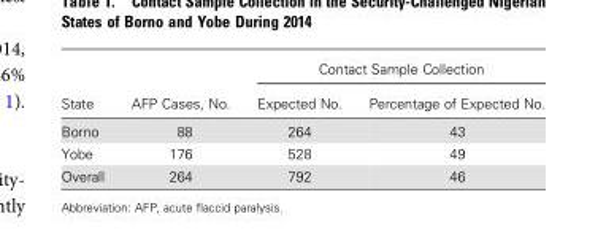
<table><thead><tr><td rowspan="2">State</td><td rowspan="2">AFP Cases, No.</td><td colspan="2">Contact Sample Collection</td></tr><tr><td>Expected No.</td><td>Percentage of Expected No.</td></tr></thead><tbody><tr><td>Borno</td><td>88</td><td>264</td><td>43</td></tr><tr><td>Yobe</td><td>176</td><td>528</td><td>49</td></tr><tr><td>Overall</td><td>264</td><td>792</td><td>46</td></tr></tbody></table>